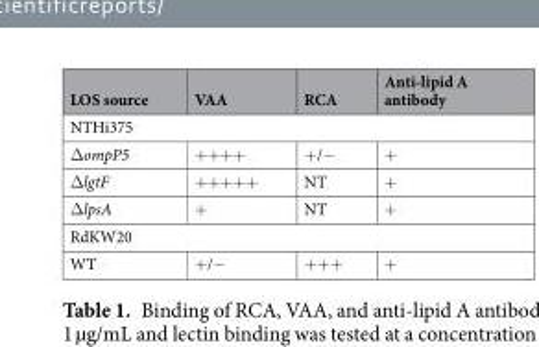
<table><thead><tr><td>LOS source</td><td>VAA</td><td>RCA</td><td>Anti-lipid A antibody</td></tr></thead><tbody><tr><td colspan="4">NTHi375</td></tr><tr><td>ΔompP5</td><td>++++</td><td>+/−</td><td>+</td></tr><tr><td>ΔlgtF</td><td>+++++</td><td>NT</td><td>+</td></tr><tr><td>ΔlpsA</td><td>+</td><td>NT</td><td>+</td></tr><tr><td colspan="4">RdKW20</td></tr><tr><td>WT</td><td>+/−</td><td>+++</td><td>+</td></tr></tbody></table>